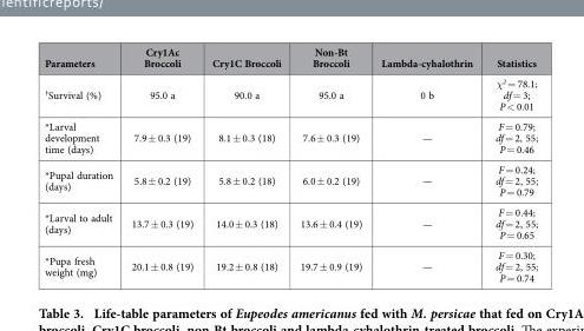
<table><thead><tr><td>Parameters</td><td>Cry1Ac Broccoli</td><td>Cry1C Broccoli</td><td>Non-Bt Broccoli</td><td>Lambda-cyhalothrin</td><td>Statistics</td></tr></thead><tbody><tr><td><sup>†</sup>Survival (%)</td><td>95.0 a</td><td>90.0 a</td><td>95.0 a</td><td>0 b</td><td>χ<sup>2</sup> = 78.1; df = 3; P &lt; 0.01</td></tr><tr><td>*Larval development time (days)</td><td>7.9 ± 0.3 (19)</td><td>8.1 ± 0.3 (18)</td><td>7.6 ± 0.3 (19)</td><td>—</td><td>F = 0.79; df = 2, 55; P = 0.46</td></tr><tr><td>*Pupal duration (days)</td><td>5.8 ± 0.2 (19)</td><td>5.8 ± 0.2 (18)</td><td>6.0 ± 0.2 (19)</td><td>—</td><td>F = 0.24; df = 2, 55; P = 0.79</td></tr><tr><td>*Larval to adult (days)</td><td>13.7 ± 0.3 (19)</td><td>14.0 ± 0.3 (18)</td><td>13.6 ± 0.4 (19)</td><td>—</td><td>F = 0.44; df = 2, 55; P = 0.65</td></tr><tr><td>*Pupa fresh weight (mg)</td><td>20.1 ± 0.8 (19)</td><td>19.2 ± 0.8 (18)</td><td>19.7 ± 0.9 (19)</td><td>—</td><td>F = 0.30; df = 2, 55; P = 0.74</td></tr></tbody></table>